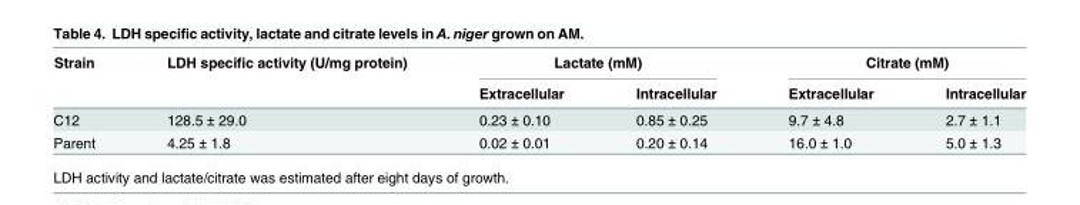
<table><thead><tr><td rowspan="2">Strain</td><td rowspan="2">LDH specific activity (U/mg protein)</td><td colspan="2">Lactate (mM)</td><td colspan="2">Citrate (mM)</td></tr><tr><td>Extracellular</td><td>Intracellular</td><td>Extracellular</td><td>Intracellular</td></tr></thead><tbody><tr><td>C12</td><td>128.5 ± 29.0</td><td>0.23 ± 0.10</td><td>0.85 ± 0.25</td><td>9.7 ± 4.8</td><td>2.7 ± 1.1</td></tr><tr><td>Parent</td><td>4.25 ± 1.8</td><td>0.02 ± 0.01</td><td>0.20 ± 0.14</td><td>16.0 ± 1.0</td><td>5.0 ± 1.3</td></tr></tbody></table>